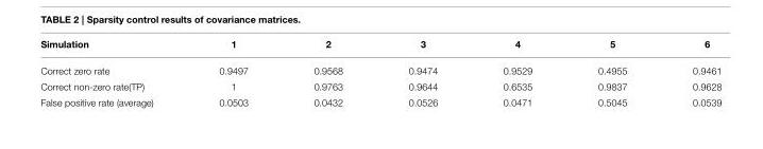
<table><thead><tr><td>Simulation</td><td>1</td><td>2</td><td>3</td><td>4</td><td>5</td><td>6</td></tr></thead><tbody><tr><td>Correct zero rate</td><td>0.9497</td><td>0.9568</td><td>0.9474</td><td>0.9529</td><td>0.4955</td><td>0.9461</td></tr><tr><td>Correct non-zero rate(TP)</td><td>1</td><td>0.9763</td><td>0.9644</td><td>0.6535</td><td>0.9837</td><td>0.9628</td></tr><tr><td>False positive rate (average)</td><td>0.0503</td><td>0.0432</td><td>0.0526</td><td>0.0471</td><td>0.5045</td><td>0.0539</td></tr></tbody></table>